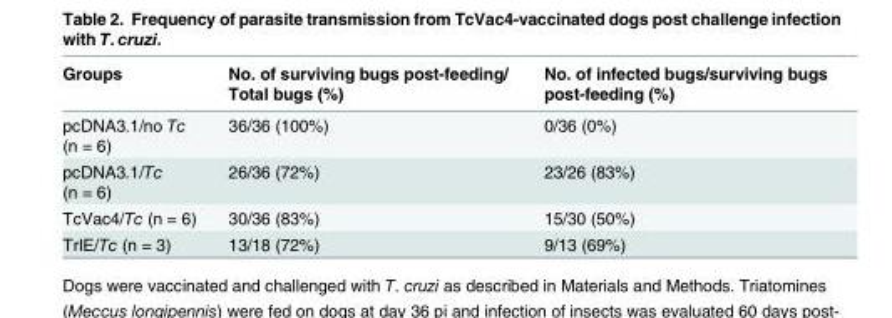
<table><thead><tr><td>Groups</td><td>No. of surviving bugs post-feeding/ Total bugs (%)</td><td>No. of infected bugs/surviving bugs post-feeding (%)</td></tr></thead><tbody><tr><td>pcDNA3.1/no Tc (n = 6)</td><td>36/36 (100%)</td><td>0/36 (0%)</td></tr><tr><td>pcDNA3.1/Tc (n = 6)</td><td>26/36 (72%)</td><td>23/26 (83%)</td></tr><tr><td>TcVac4/Tc (n = 6)</td><td>30/36 (83%)</td><td>15/30 (50%)</td></tr><tr><td>TrIE/Tc (n = 3)</td><td>13/18 (72%)</td><td>9/13 (69%)</td></tr></tbody></table>